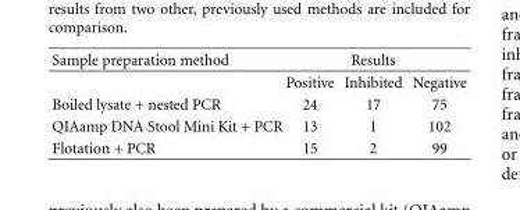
<table><thead><tr><td>Sample preparation method</td><td></td><td>Results</td><td></td></tr></thead><tbody><tr><td></td><td>Positive</td><td>Inhibited</td><td>Negative</td></tr><tr><td>Boiled lysate + nested PCR</td><td>24</td><td>17</td><td>75</td></tr><tr><td>QIAamp DNA Stool Mini Kit + PCR</td><td>13</td><td>1</td><td>102</td></tr><tr><td>Flotation + PCR</td><td>15</td><td>2</td><td>99</td></tr></tbody></table>